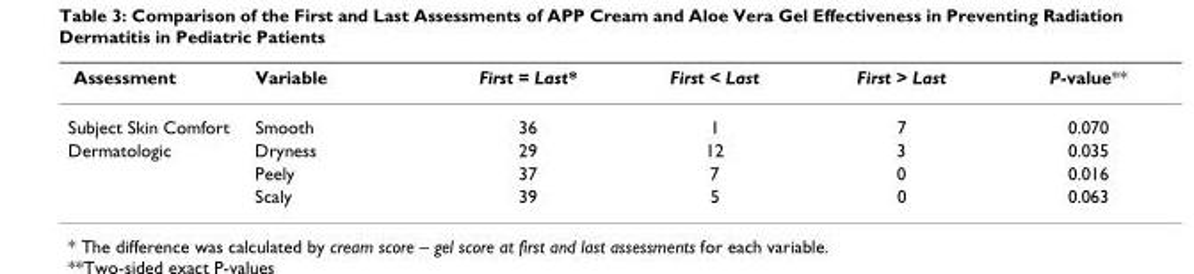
<table><thead><tr><td>Assessment</td><td>Variable</td><td>First = Last*</td><td>First &lt; Last</td><td>First &gt; Last</td><td>P-value**</td></tr></thead><tbody><tr><td>Subject Skin Comfort</td><td>Smooth</td><td>36</td><td>1</td><td>7</td><td>0.070</td></tr><tr><td rowspan="3">Dermatologic</td><td>Dryness</td><td>29</td><td>12</td><td>3</td><td>0.035</td></tr><tr><td>Peely</td><td>37</td><td>7</td><td>0</td><td>0.016</td></tr><tr><td>Scaly</td><td>39</td><td>5</td><td>0</td><td>0.063</td></tr></tbody></table>